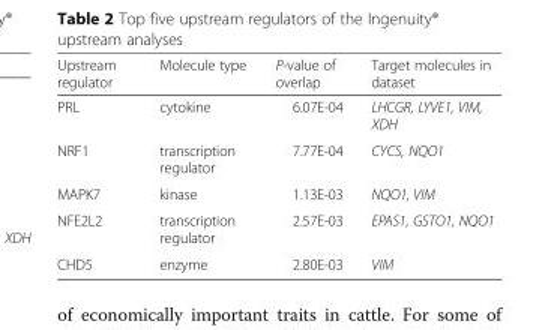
<table><thead><tr><td>Upstream regulator</td><td>Molecule type</td><td>P-value of overlap</td><td>Target molecules in dataset</td></tr></thead><tbody><tr><td>PRL</td><td>cytokine</td><td>6.07E-04</td><td>LHCGR, LYVE1, VIM, XDH</td></tr><tr><td>NRF1</td><td>transcription regulator</td><td>7.77E-04</td><td>CYCS, NQO1</td></tr><tr><td>MAPK7</td><td>kinase</td><td>1.13E-03</td><td>NQO1, VIM</td></tr><tr><td>NFE2L2</td><td>transcription regulator</td><td>2.57E-03</td><td>EPAS1, GSTO1, NQO1</td></tr><tr><td>CHD5</td><td>enzyme</td><td>2.80E-03</td><td>VIM</td></tr></tbody></table>